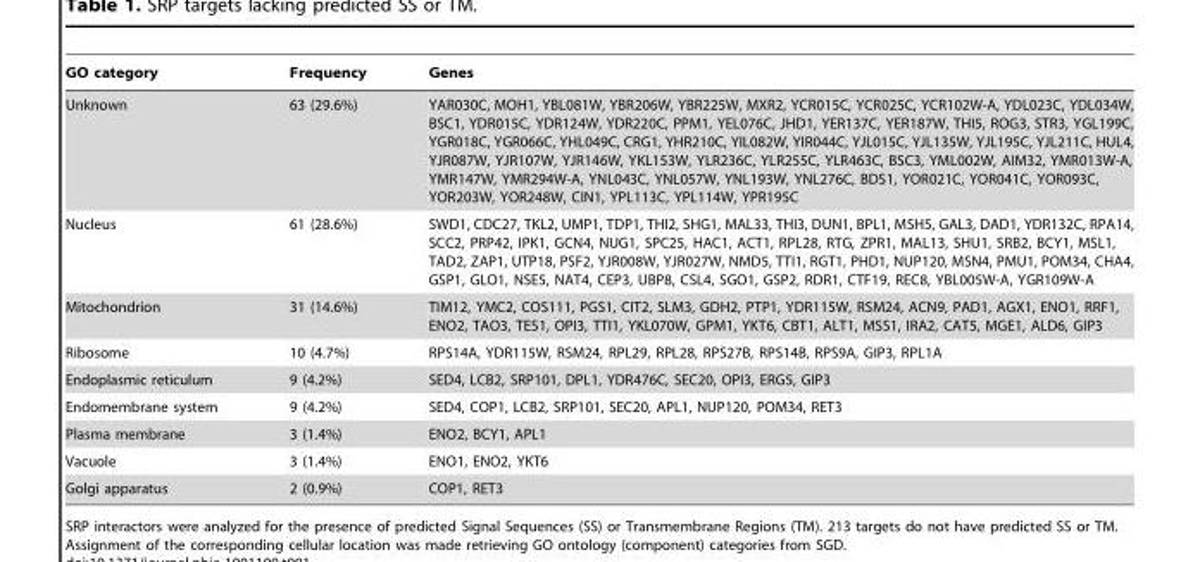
<table><thead><tr><td>GO category</td><td>Frequency</td><td>Genes</td></tr></thead><tbody><tr><td>Unknown</td><td>63 (29.6%)</td><td>YAR030C, MOH1, YBL081W, YBR206W, YBR225W, MXR2, YCR015C, YCR025C, YCR102W-A, YDL023C, YDL034W, BSC1, YDR015C, YDR124W, YDR220C, PPM1, YEL076C, JHD1, YER137C, YER187W, THI5, ROG3, STR3, YGL199C, YGR018C, YGR066C, YHL049C, CRG1, YHR210C, YIL082W, YIR044C, YJL015C, YJL135W, YJL195C, YJL211C, HUL4, YJR087W, YJR107W, YJR146W, YKL153W, YLR236C, YLR255C, YLR463C, BSC3, YML002W, AIM32, YMR013W-A, YMR147W, YMR294W-A, YNL043C, YNL057W, YNL193W, YNL276C, BDS1, YOR021C, YOR041C, YOR093C, YOR203W, YOR248W, CIN1, YPL113C, YPL114W, YPR195C</td></tr><tr><td>Nucleus</td><td>61 (28.6%)</td><td>SWD1, CDC27, TKL2, UMP1, TDP1, THI2, SHG1, MAL33, THI3, DUN1, BPL1, MSH5, GAL3, DAD1, YDR132C, RPA14, SCC2, PRP42, IPK1, GCN4, NUG1, SPC25, HAC1, ACT1, RPL28, RTG, ZPR1, MAL13, SHU1, SRB2, BCY1, MSL1, TAD2, ZAP1, UTP18, PSF2, YJR008W, YJR027W, NMD5, TTI1, RGT1, PHD1, NUP120, MSN4, PMU1, POM34, CHA4, GSP1, GLO1, NSE5, NAT4, CEP3, UBP8, CSL4, SGO1, GSP2, RDR1, CTF19, REC8, YBL005W-A, YGR109W-A</td></tr><tr><td>Mitochondrion</td><td>31 (14.6%)</td><td>TIM12, YMC2, COS111, PGS1, CIT2, SLM3, GDH2, PTP1, YDR115W, RSM24, ACN9, PAD1, AGX1, ENO1, RRF1, ENO2, TAO3, TES1, OPI3, TTI1, YKL070W, GPM1, YKT6, CBT1, ALT1, MSS1, IRA2, CAT5, MGE1, ALD6, GIP3</td></tr><tr><td>Ribosome</td><td>10 (4.7%)</td><td>RPS14A, YDR115W, RSM24, RPL29, RPL28, RPS27B, RPS14B, RPS9A, GIP3, RPL1A</td></tr><tr><td>Endoplasmic reticulum</td><td>9 (4.2%)</td><td>SED4, LCB2, SRP101, DPL1, YDR476C, SEC20, OPI3, ERG5, GIP3</td></tr><tr><td>Endomembrane system</td><td>9 (4.2%)</td><td>SED4, COP1, LCB2, SRP101, SEC20, APL1, NUP120, POM34, RET3</td></tr><tr><td>Plasma membrane</td><td>3 (1.4%)</td><td>ENO2, BCY1, APL1</td></tr><tr><td>Vacuole</td><td>3 (1.4%)</td><td>ENO1, ENO2, YKT6</td></tr><tr><td>Golgi apparatus</td><td>2 (0.9%)</td><td>COP1, RET3</td></tr></tbody></table>